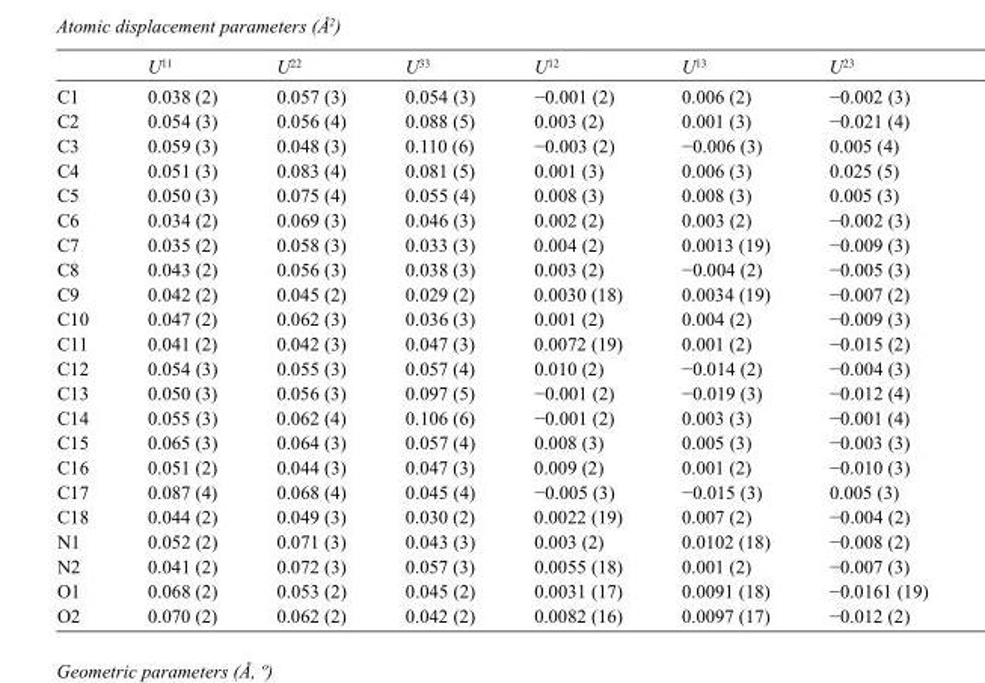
<table><thead><tr><td></td><td>U<sup>11</sup></td><td>U<sup>22</sup></td><td>U<sup>33</sup></td><td>U<sup>12</sup></td><td>U<sup>13</sup></td><td>U<sup>23</sup></td></tr></thead><tbody><tr><td>C1</td><td>0.038 (2)</td><td>0.057 (3)</td><td>0.054 (3)</td><td>−0.001 (2)</td><td>0.006 (2)</td><td>−0.002 (3)</td></tr><tr><td>C2</td><td>0.054 (3)</td><td>0.056 (4)</td><td>0.088 (5)</td><td>0.003 (2)</td><td>0.001 (3)</td><td>−0.021 (4)</td></tr><tr><td>C3</td><td>0.059 (3)</td><td>0.048 (3)</td><td>0.110 (6)</td><td>−0.003 (2)</td><td>−0.006 (3)</td><td>0.005 (4)</td></tr><tr><td>C4</td><td>0.051 (3)</td><td>0.083 (4)</td><td>0.081 (5)</td><td>0.001 (3)</td><td>0.006 (3)</td><td>0.025 (5)</td></tr><tr><td>C5</td><td>0.050 (3)</td><td>0.075 (4)</td><td>0.055 (4)</td><td>0.008 (3)</td><td>0.008 (3)</td><td>0.005 (3)</td></tr><tr><td>C6</td><td>0.034 (2)</td><td>0.069 (3)</td><td>0.046 (3)</td><td>0.002 (2)</td><td>0.003 (2)</td><td>−0.002 (3)</td></tr><tr><td>C7</td><td>0.035 (2)</td><td>0.058 (3)</td><td>0.033 (3)</td><td>0.004 (2)</td><td>0.0013 (19)</td><td>−0.009 (3)</td></tr><tr><td>C8</td><td>0.043 (2)</td><td>0.056 (3)</td><td>0.038 (3)</td><td>0.003 (2)</td><td>−0.004 (2)</td><td>−0.005 (3)</td></tr><tr><td>C9</td><td>0.042 (2)</td><td>0.045 (2)</td><td>0.029 (2)</td><td>0.0030 (18)</td><td>0.0034 (19)</td><td>−0.007 (2)</td></tr><tr><td>C10</td><td>0.047 (2)</td><td>0.062 (3)</td><td>0.036 (3)</td><td>0.001 (2)</td><td>0.004 (2)</td><td>−0.009 (3)</td></tr><tr><td>C11</td><td>0.041 (2)</td><td>0.042 (3)</td><td>0.047 (3)</td><td>0.0072 (19)</td><td>0.001 (2)</td><td>−0.015 (2)</td></tr><tr><td>C12</td><td>0.054 (3)</td><td>0.055 (3)</td><td>0.057 (4)</td><td>0.010 (2)</td><td>−0.014 (2)</td><td>−0.004 (3)</td></tr><tr><td>C13</td><td>0.050 (3)</td><td>0.056 (3)</td><td>0.097 (5)</td><td>−0.001 (2)</td><td>−0.019 (3)</td><td>−0.012 (4)</td></tr><tr><td>C14</td><td>0.055 (3)</td><td>0.062 (4)</td><td>0.106 (6)</td><td>−0.001 (2)</td><td>0.003 (3)</td><td>−0.001 (4)</td></tr><tr><td>C15</td><td>0.065 (3)</td><td>0.064 (3)</td><td>0.057 (4)</td><td>0.008 (3)</td><td>0.005 (3)</td><td>−0.003 (3)</td></tr><tr><td>C16</td><td>0.051 (2)</td><td>0.044 (3)</td><td>0.047 (3)</td><td>0.009 (2)</td><td>0.001 (2)</td><td>−0.010 (3)</td></tr><tr><td>C17</td><td>0.087 (4)</td><td>0.068 (4)</td><td>0.045 (4)</td><td>−0.005 (3)</td><td>−0.015 (3)</td><td>0.005 (3)</td></tr><tr><td>C18</td><td>0.044 (2)</td><td>0.049 (3)</td><td>0.030 (2)</td><td>0.0022 (19)</td><td>0.007 (2)</td><td>−0.004 (2)</td></tr><tr><td>N1</td><td>0.052 (2)</td><td>0.071 (3)</td><td>0.043 (3)</td><td>0.003 (2)</td><td>0.0102 (18)</td><td>−0.008 (2)</td></tr><tr><td>N2</td><td>0.041 (2)</td><td>0.072 (3)</td><td>0.057 (3)</td><td>0.0055 (18)</td><td>0.001 (2)</td><td>−0.007 (3)</td></tr><tr><td>O1</td><td>0.068 (2)</td><td>0.053 (2)</td><td>0.045 (2)</td><td>0.0031 (17)</td><td>0.0091 (18)</td><td>−0.0161 (19)</td></tr><tr><td>O2</td><td>0.070 (2)</td><td>0.062 (2)</td><td>0.042 (2)</td><td>0.0082 (16)</td><td>0.0097 (17)</td><td>−0.012 (2)</td></tr></tbody></table>